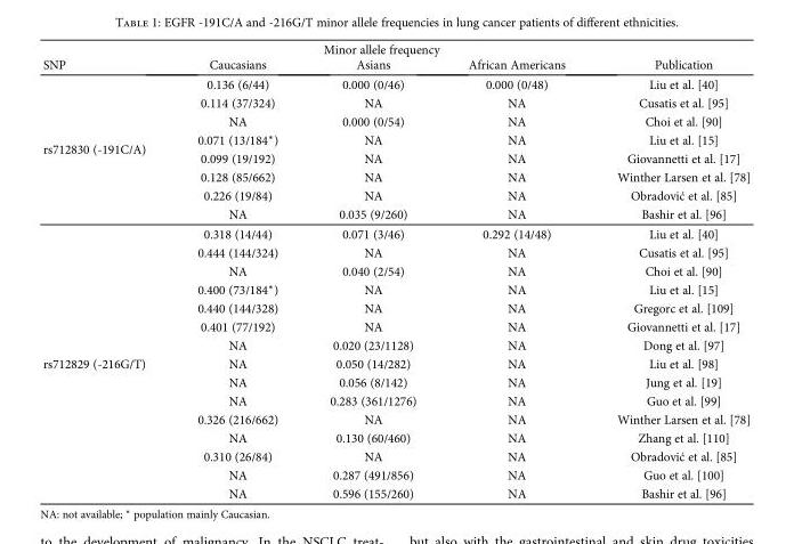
<table><thead><tr><td rowspan="2">SNP</td><td colspan="3">Minor allele frequency</td><td rowspan="2">Publication</td></tr><tr><td>Caucasians</td><td>Asians</td><td>African Americans</td></tr></thead><tbody><tr><td rowspan="8">rs712830 (-191C/A)</td><td>0.136 (6/44)</td><td>0.000 (0/46)</td><td>0.000 (0/48)</td><td>Liu et al. [40]</td></tr><tr><td>0.114 (37/324)</td><td>NA</td><td>NA</td><td>Cusatis et al. [95]</td></tr><tr><td>NA</td><td>0.000 (0/54)</td><td>NA</td><td>Choi et al. [90]</td></tr><tr><td>0.071 (13/184∗)</td><td>NA</td><td>NA</td><td>Liu et al. [15]</td></tr><tr><td>0.099 (19/192)</td><td>NA</td><td>NA</td><td>Giovannetti et al. [17]</td></tr><tr><td>0.128 (85/662)</td><td>NA</td><td>NA</td><td>Winther Larsen et al. [78]</td></tr><tr><td>0.226 (19/84)</td><td>NA</td><td>NA</td><td>Obradović et al. [85]</td></tr><tr><td>NA</td><td>0.035 (9/260)</td><td>NA</td><td>Bashir et al. [96]</td></tr><tr><td rowspan="15">rs712829 (-216G/T)</td><td>0.318 (14/44)</td><td>0.071 (3/46)</td><td>0.292 (14/48)</td><td>Liu et al. [40]</td></tr><tr><td>0.444 (144/324)</td><td>NA</td><td>NA</td><td>Cusatis et al. [95]</td></tr><tr><td>NA</td><td>0.040 (2/54)</td><td>NA</td><td>Choi et al. [90]</td></tr><tr><td>0.400 (73/184∗)</td><td>NA</td><td>NA</td><td>Liu et al. [15]</td></tr><tr><td>0.440 (144/328)</td><td>NA</td><td>NA</td><td>Gregorc et al. [109]</td></tr><tr><td>0.401 (77/192)</td><td>NA</td><td>NA</td><td>Giovannetti et al. [17]</td></tr><tr><td>NA</td><td>0.020 (23/1128)</td><td>NA</td><td>Dong et al. [97]</td></tr><tr><td>NA</td><td>0.050 (14/282)</td><td>NA</td><td>Liu et al. [98]</td></tr><tr><td>NA</td><td>0.056 (8/142)</td><td>NA</td><td>Jung et al. [19]</td></tr><tr><td>NA</td><td>0.283 (361/1276)</td><td>NA</td><td>Guo et al. [99]</td></tr><tr><td>0.326 (216/662)</td><td>NA</td><td>NA</td><td>Winther Larsen et al. [78]</td></tr><tr><td>NA</td><td>0.130 (60/460)</td><td>NA</td><td>Zhang et al. [110]</td></tr><tr><td>0.310 (26/84)</td><td>NA</td><td>NA</td><td>Obradović et al. [85]</td></tr><tr><td>NA</td><td>0.287 (491/856)</td><td>NA</td><td>Guo et al. [100]</td></tr><tr><td>NA</td><td>0.596 (155/260)</td><td>NA</td><td>Bashir et al. [96]</td></tr></tbody></table>